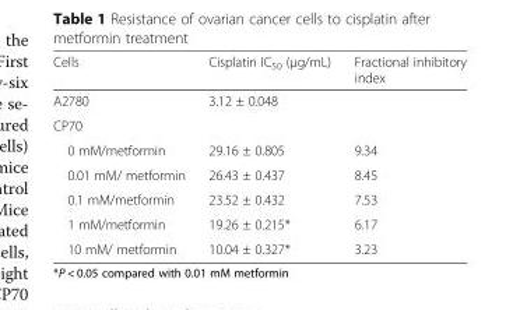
<table><thead><tr><td>Cells</td><td>Cisplatin IC<sub>50</sub> (μg/mL)</td><td>Fractional inhibitory index</td></tr></thead><tbody><tr><td>A2780</td><td>3.12 ± 0.048</td><td></td></tr><tr><td colspan="3">CP70</td></tr><tr><td>0 mM/metformin</td><td>29.16 ± 0.805</td><td>9.34</td></tr><tr><td>0.01 mM/ metformin</td><td>26.43 ± 0.437</td><td>8.45</td></tr><tr><td>0.1 mM/metformin</td><td>23.52 ± 0.432</td><td>7.53</td></tr><tr><td>1 mM/metformin</td><td>19.26 ± 0.215*</td><td>6.17</td></tr><tr><td>10 mM/ metformin</td><td>10.04 ± 0.327*</td><td>3.23</td></tr></tbody></table>